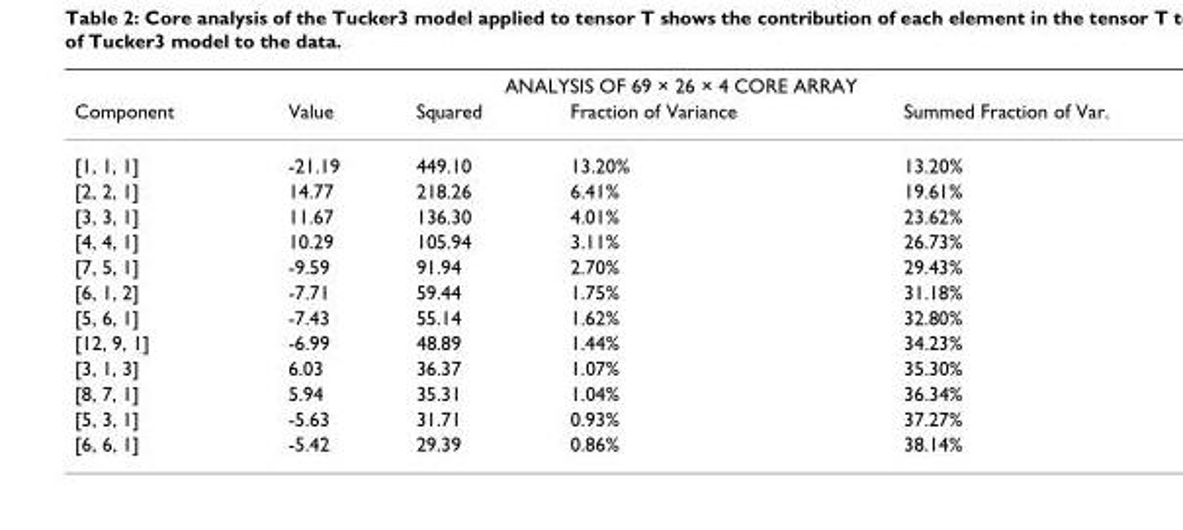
<table><thead><tr><td colspan="5">ANALYSIS OF 69 × 26 × 4 CORE ARRAY</td></tr><tr><td>Component</td><td>Value</td><td>Squared</td><td>Fraction of Variance</td><td>Summed Fraction of Var.</td></tr></thead><tbody><tr><td>[1, 1, 1]</td><td>-21.19</td><td>449.10</td><td>13.20%</td><td>13.20%</td></tr><tr><td>[2, 2, 1]</td><td>14.77</td><td>218.26</td><td>6.41%</td><td>19.61%</td></tr><tr><td>[3, 3, 1]</td><td>11.67</td><td>136.30</td><td>4.01%</td><td>23.62%</td></tr><tr><td>[4, 4, 1]</td><td>10.29</td><td>105.94</td><td>3.11%</td><td>26.73%</td></tr><tr><td>[7, 5, 1]</td><td>-9.59</td><td>91.94</td><td>2.70%</td><td>29.43%</td></tr><tr><td>[6, 1, 2]</td><td>-7.71</td><td>59.44</td><td>1.75%</td><td>31.18%</td></tr><tr><td>[5, 6, 1]</td><td>-7.43</td><td>55.14</td><td>1.62%</td><td>32.80%</td></tr><tr><td>[12, 9, 1]</td><td>-6.99</td><td>48.89</td><td>1.44%</td><td>34.23%</td></tr><tr><td>[3, 1, 3]</td><td>6.03</td><td>36.37</td><td>1.07%</td><td>35.30%</td></tr><tr><td>[8, 7, 1]</td><td>5.94</td><td>35.31</td><td>1.04%</td><td>36.34%</td></tr><tr><td>[5, 3, 1]</td><td>-5.63</td><td>31.71</td><td>0.93%</td><td>37.27%</td></tr><tr><td>[6, 6, 1]</td><td>-5.42</td><td>29.39</td><td>0.86%</td><td>38.14%</td></tr></tbody></table>